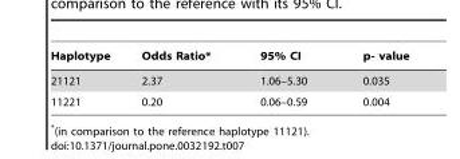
<table><thead><tr><td>Haplotype</td><td>Odds Ratio*</td><td>95% CI</td><td>p- value</td></tr></thead><tbody><tr><td>21121</td><td>2.37</td><td>1.06–5.30</td><td>0.035</td></tr><tr><td>11221</td><td>0.20</td><td>0.06–0.59</td><td>0.004</td></tr></tbody></table>